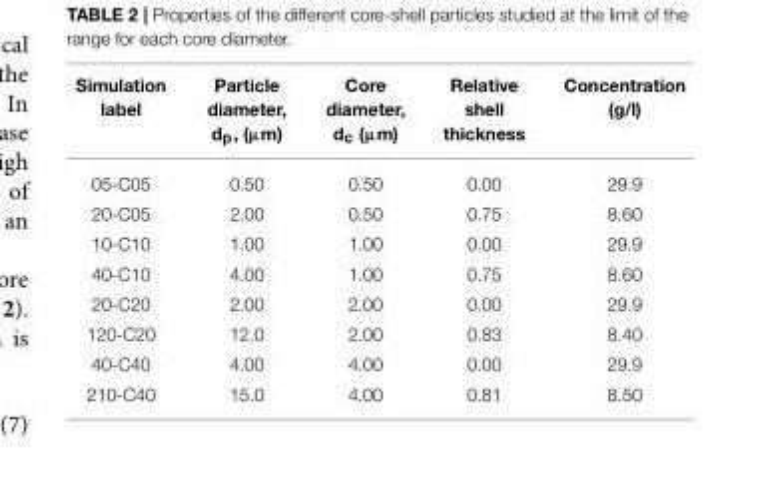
<table><thead><tr><td>Simulation label</td><td>Particle diameter, d<sub>p</sub>, (µm)</td><td>Core diameter, d<sub>c</sub> (µm)</td><td>Relative shell thickness</td><td>Concentration (g/l)</td></tr></thead><tbody><tr><td>05-C05</td><td>0.50</td><td>0.50</td><td>0.00</td><td>29.9</td></tr><tr><td>20-C05</td><td>2.00</td><td>0.50</td><td>0.75</td><td>8.60</td></tr><tr><td>10-C10</td><td>1.00</td><td>1.00</td><td>0.00</td><td>29.9</td></tr><tr><td>40-C10</td><td>4.00</td><td>1.00</td><td>0.75</td><td>8.60</td></tr><tr><td>20-C20</td><td>2.00</td><td>2.00</td><td>0.00</td><td>29.9</td></tr><tr><td>120-C20</td><td>12.0</td><td>2.00</td><td>0.83</td><td>8.40</td></tr><tr><td>40-C40</td><td>4.00</td><td>4.00</td><td>0.00</td><td>29.9</td></tr><tr><td>210-C40</td><td>15.0</td><td>4.00</td><td>0.81</td><td>8.50</td></tr></tbody></table>